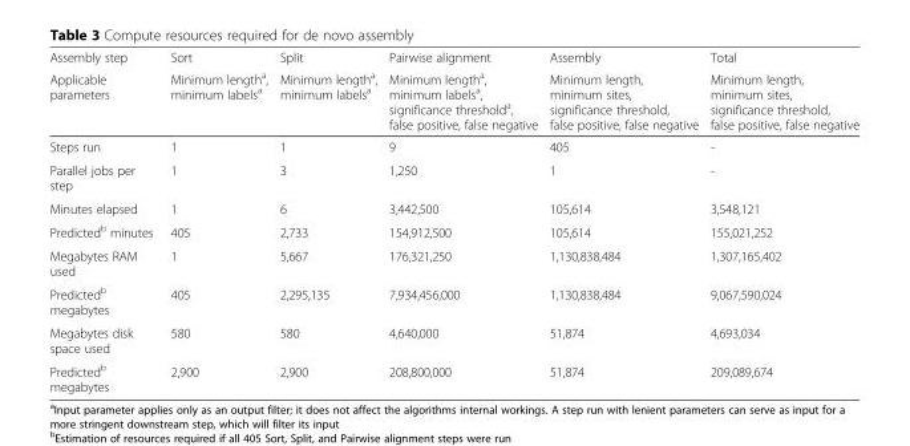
<table><thead><tr><td rowspan="2">Assembly step Applicable parameters</td><td rowspan="2">Sort Minimum length<sup>a</sup>, minimum labels<sup>a</sup></td><td rowspan="2">Split Minimum length<sup>a</sup>, minimum labels<sup>a</sup></td><td rowspan="2">Pairwise alignment Minimum length<sup>a</sup>, minimum labels<sup>a</sup>, significance threshold<sup>a</sup>, false positive, false negative</td><td rowspan="2">Assembly Minimum length, minimum sites, significance threshold, false positive, false negative</td><td rowspan="2">Total Minimum length, minimum sites, significance threshold, false positive, false negative</td></tr><tr></tr></thead><tbody><tr><td>Steps run</td><td>1</td><td>1</td><td>9</td><td>405</td><td>-</td></tr><tr><td>Parallel jobs per step</td><td>1</td><td>3</td><td>1,250</td><td>1</td><td>-</td></tr><tr><td>Minutes elapsed</td><td>1</td><td>6</td><td>3,442,500</td><td>105,614</td><td>3,548,121</td></tr><tr><td>Predicted<sup>b</sup> minutes</td><td>405</td><td>2,733</td><td>154,912,500</td><td>105,614</td><td>155,021,252</td></tr><tr><td>Megabytes RAM used</td><td>1</td><td>5,667</td><td>176,321,250</td><td>1,130,838,484</td><td>1,307,165,402</td></tr><tr><td>Predicted<sup>b</sup> megabytes</td><td>405</td><td>2,295,135</td><td>7,934,456,000</td><td>1,130,838,484</td><td>9,067,590,024</td></tr><tr><td>Megabytes disk space used</td><td>580</td><td>580</td><td>4,640,000</td><td>51,874</td><td>4,693,034</td></tr><tr><td>Predicted<sup>b</sup> megabytes</td><td>2,900</td><td>2,900</td><td>208,800,000</td><td>51,874</td><td>209,089,674</td></tr></tbody></table>